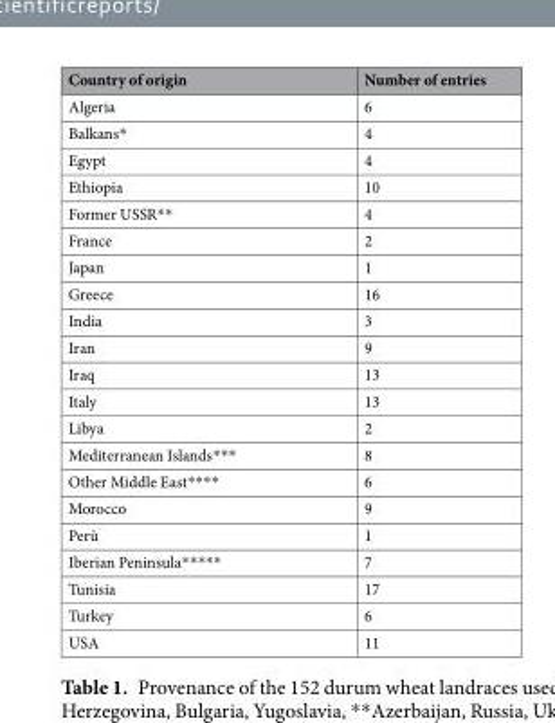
<table><thead><tr><td>Country of origin</td><td>Number of entries</td></tr></thead><tbody><tr><td>Algeria</td><td>6</td></tr><tr><td>Balkans*</td><td>4</td></tr><tr><td>Egypt</td><td>4</td></tr><tr><td>Ethiopia</td><td>10</td></tr><tr><td>Former USSR**</td><td>4</td></tr><tr><td>France</td><td>2</td></tr><tr><td>Japan</td><td>1</td></tr><tr><td>Greece</td><td>16</td></tr><tr><td>India</td><td>3</td></tr><tr><td>Iran</td><td>9</td></tr><tr><td>Iraq</td><td>13</td></tr><tr><td>Italy</td><td>13</td></tr><tr><td>Libya</td><td>2</td></tr><tr><td>Mediterranean Islands***</td><td>8</td></tr><tr><td>Other Middle East****</td><td>6</td></tr><tr><td>Morocco</td><td>9</td></tr><tr><td>Perù</td><td>1</td></tr><tr><td>Iberian Peninsula*****</td><td>7</td></tr><tr><td>Tunisia</td><td>17</td></tr><tr><td>Turkey</td><td>6</td></tr><tr><td>USA</td><td>11</td></tr></tbody></table>